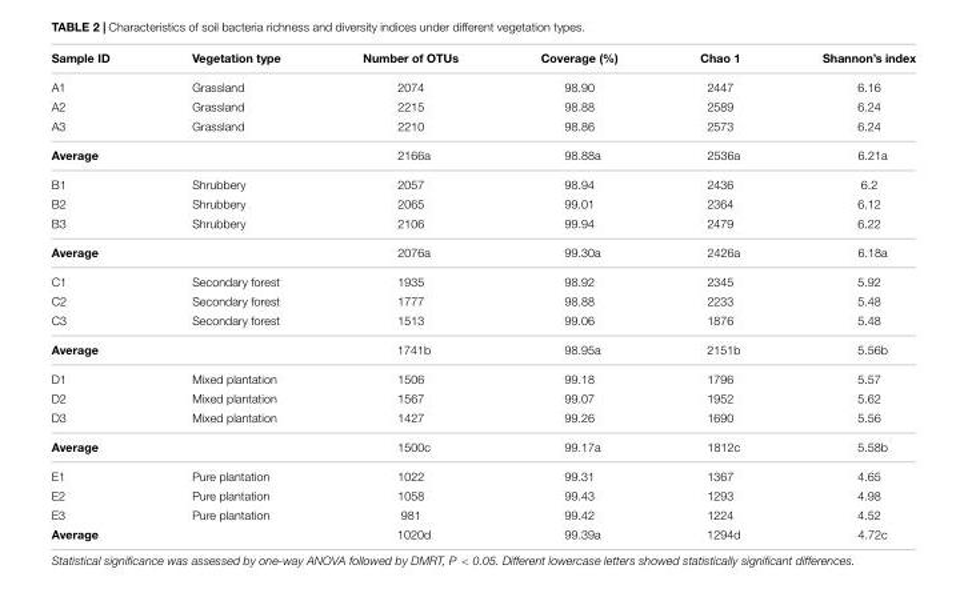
<table><thead><tr><td>Sample ID</td><td>Vegetation type</td><td>Number of OTUs</td><td>Coverage (%)</td><td>Chao 1</td><td>Shannon’s index</td></tr></thead><tbody><tr><td>A1</td><td>Grassland</td><td>2074</td><td>98.90</td><td>2447</td><td>6.16</td></tr><tr><td>A2</td><td>Grassland</td><td>2215</td><td>98.88</td><td>2589</td><td>6.24</td></tr><tr><td>A3</td><td>Grassland</td><td>2210</td><td>98.86</td><td>2573</td><td>6.24</td></tr><tr><td colspan="2">Average</td><td>2166a</td><td>98.88a</td><td>2536a</td><td>6.21a</td></tr><tr><td>B1</td><td>Shrubbery</td><td>2057</td><td>98.94</td><td>2436</td><td>6.2</td></tr><tr><td>B2</td><td>Shrubbery</td><td>2065</td><td>99.01</td><td>2364</td><td>6.12</td></tr><tr><td>B3</td><td>Shrubbery</td><td>2106</td><td>99.94</td><td>2479</td><td>6.22</td></tr><tr><td colspan="2">Average</td><td>2076a</td><td>99.30a</td><td>2426a</td><td>6.18a</td></tr><tr><td>C1</td><td>Secondary forest</td><td>1935</td><td>98.92</td><td>2345</td><td>5.92</td></tr><tr><td>C2</td><td>Secondary forest</td><td>1777</td><td>98.88</td><td>2233</td><td>5.48</td></tr><tr><td>C3</td><td>Secondary forest</td><td>1513</td><td>99.06</td><td>1876</td><td>5.48</td></tr><tr><td colspan="2">Average</td><td>1741b</td><td>98.95a</td><td>2151b</td><td>5.56b</td></tr><tr><td>D1</td><td>Mixed plantation</td><td>1506</td><td>99.18</td><td>1796</td><td>5.57</td></tr><tr><td>D2</td><td>Mixed plantation</td><td>1567</td><td>99.07</td><td>1952</td><td>5.62</td></tr><tr><td>D3</td><td>Mixed plantation</td><td>1427</td><td>99.26</td><td>1690</td><td>5.56</td></tr><tr><td>Average</td><td></td><td>1500c</td><td>99.17a</td><td>1812c</td><td>5.58b</td></tr><tr><td>E1</td><td>Pure plantation</td><td>1022</td><td>99.31</td><td>1367</td><td>4.65</td></tr><tr><td>E2</td><td>Pure plantation</td><td>1058</td><td>99.43</td><td>1293</td><td>4.98</td></tr><tr><td>E3</td><td>Pure plantation</td><td>981</td><td>99.42</td><td>1224</td><td>4.52</td></tr><tr><td>Average</td><td></td><td>1020d</td><td>99.39a</td><td>1294d</td><td>4.72c</td></tr></tbody></table>